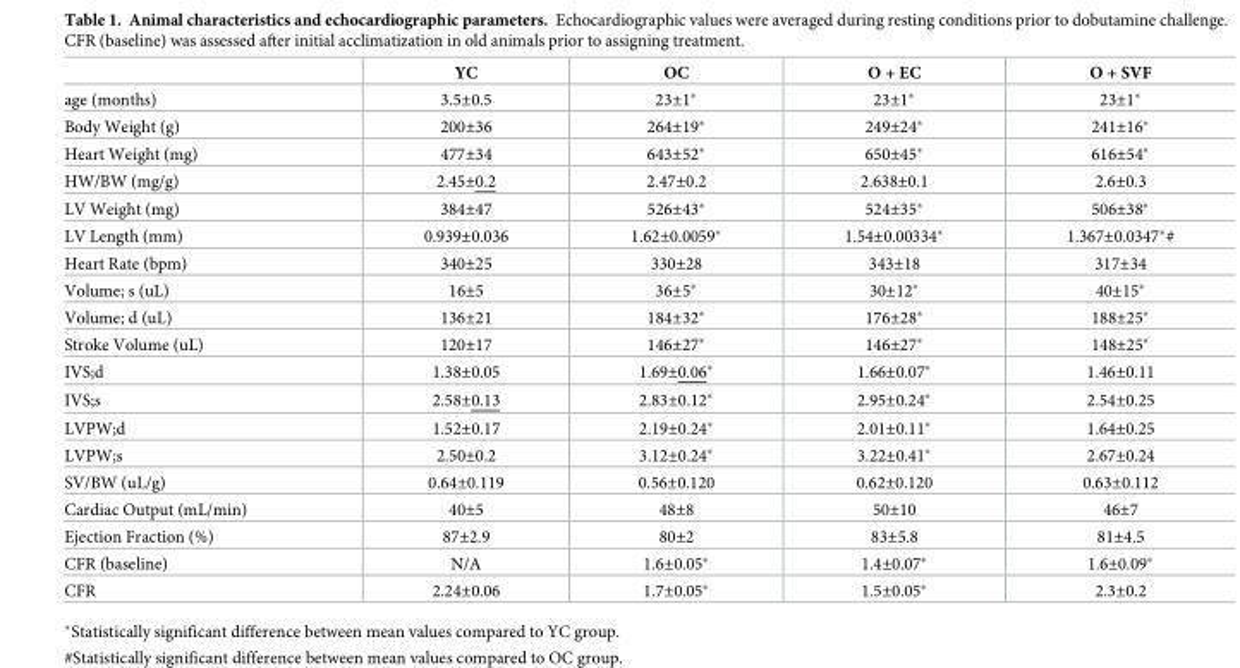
<table><thead><tr><td></td><td>YC</td><td>OC</td><td>O + EC</td><td>O + SVF</td></tr></thead><tbody><tr><td>age (months)</td><td>3.5±0.5</td><td>23±1*</td><td>23±1*</td><td>23±1*</td></tr><tr><td>Body Weight (g)</td><td>200±36</td><td>264±19*</td><td>249±24*</td><td>241±16*</td></tr><tr><td>Heart Weight (mg)</td><td>477±34</td><td>643±52*</td><td>650±45*</td><td>616±54*</td></tr><tr><td>HW/BW (mg/g)</td><td>2.45±0.2</td><td>2.47±0.2</td><td>2.638±0.1</td><td>2.6±0.3</td></tr><tr><td>LV Weight (mg)</td><td>384±47</td><td>526±43*</td><td>524±35*</td><td>506±38*</td></tr><tr><td>LV Length (mm)</td><td>0.939±0.036</td><td>1.62±0.0059*</td><td>1.54±0.00334*</td><td>1.367±0.0347*#</td></tr><tr><td>Heart Rate (bpm)</td><td>340±25</td><td>330±28</td><td>343±18</td><td>317±34</td></tr><tr><td>Volume; s (uL)</td><td>16±5</td><td>36±5*</td><td>30±12*</td><td>40±15*</td></tr><tr><td>Volume; d (uL)</td><td>136±21</td><td>184±32*</td><td>176±28*</td><td>188±25*</td></tr><tr><td>Stroke Volume (uL)</td><td>120±17</td><td>146±27*</td><td>146±27*</td><td>148±25*</td></tr><tr><td>IVS;d</td><td>1.38±0.05</td><td>1.69±0.06*</td><td>1.66±0.07*</td><td>1.46±0.11</td></tr><tr><td>IVS;s</td><td>2.58±0.13</td><td>2.83±0.12*</td><td>2.95±0.24*</td><td>2.54±0.25</td></tr><tr><td>LVPW;d</td><td>1.52±0.17</td><td>2.19±0.24*</td><td>2.01±0.11*</td><td>1.64±0.25</td></tr><tr><td>LVPW;s</td><td>2.50±0.2</td><td>3.12±0.24*</td><td>3.22±0.41*</td><td>2.67±0.24</td></tr><tr><td>SV/BW (uL/g)</td><td>0.64±0.119</td><td>0.56±0.120</td><td>0.62±0.120</td><td>0.63±0.112</td></tr><tr><td>Cardiac Output (mL/min)</td><td>40±5</td><td>48±8</td><td>50±10</td><td>46±7</td></tr><tr><td>Ejection Fraction (%)</td><td>87±2.9</td><td>80±2</td><td>83±5.8</td><td>81±4.5</td></tr><tr><td>CFR (baseline)</td><td>N/A</td><td>1.6±0.05*</td><td>1.4±0.07*</td><td>1.6±0.09*</td></tr><tr><td>CFR</td><td>2.24±0.06</td><td>1.7±0.05*</td><td>1.5±0.05*</td><td>2.3±0.2</td></tr></tbody></table>